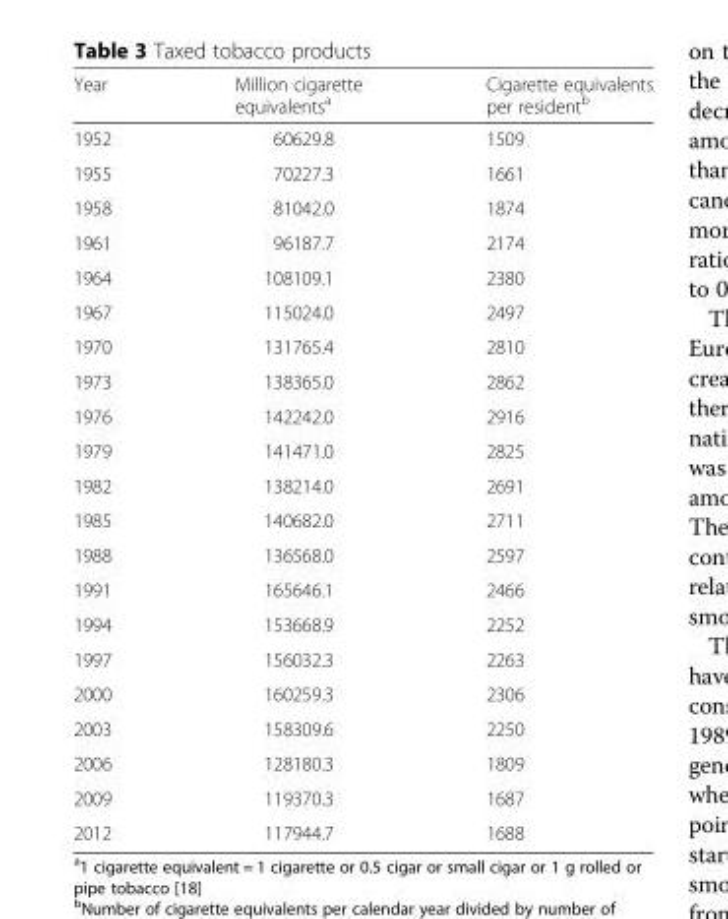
<table><thead><tr><td>Year</td><td>Million cigarette equivalents<sup>a</sup></td><td>Cigarette equivalents per resident<sup>b</sup></td></tr></thead><tbody><tr><td>1952</td><td>60629.8</td><td>1509</td></tr><tr><td>1955</td><td>70227.3</td><td>1661</td></tr><tr><td>1958</td><td>81042.0</td><td>1874</td></tr><tr><td>1961</td><td>96187.7</td><td>2174</td></tr><tr><td>1964</td><td>108109.1</td><td>2380</td></tr><tr><td>1967</td><td>115024.0</td><td>2497</td></tr><tr><td>1970</td><td>131765.4</td><td>2810</td></tr><tr><td>1973</td><td>138365.0</td><td>2862</td></tr><tr><td>1976</td><td>142242.0</td><td>2916</td></tr><tr><td>1979</td><td>141471.0</td><td>2825</td></tr><tr><td>1982</td><td>138214.0</td><td>2691</td></tr><tr><td>1985</td><td>140682.0</td><td>2711</td></tr><tr><td>1988</td><td>136568.0</td><td>2597</td></tr><tr><td>1991</td><td>165646.1</td><td>2466</td></tr><tr><td>1994</td><td>153668.9</td><td>2252</td></tr><tr><td>1997</td><td>156032.3</td><td>2263</td></tr><tr><td>2000</td><td>160259.3</td><td>2306</td></tr><tr><td>2003</td><td>158309.6</td><td>2250</td></tr><tr><td>2006</td><td>128180.3</td><td>1809</td></tr><tr><td>2009</td><td>119370.3</td><td>1687</td></tr><tr><td>2012</td><td>117944.7</td><td>1688</td></tr></tbody></table>